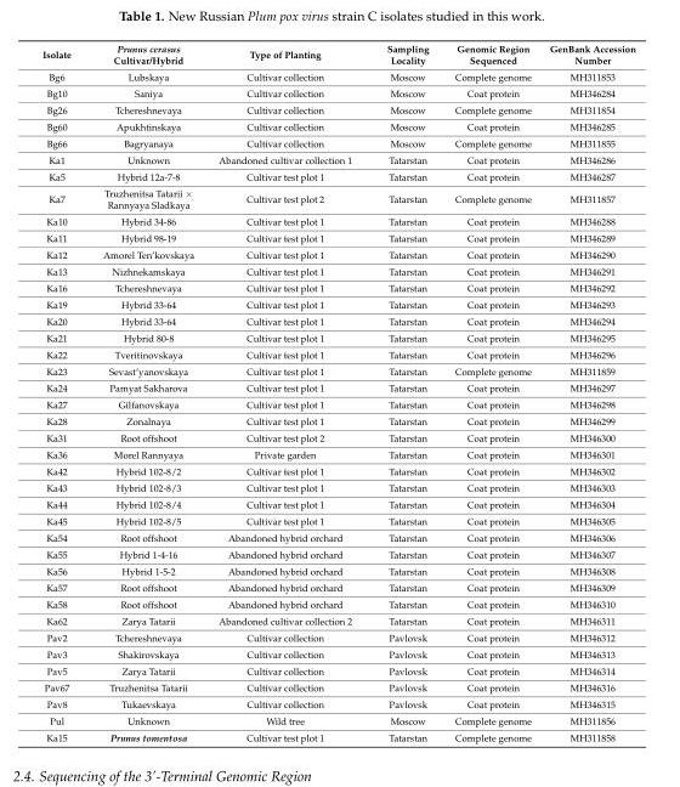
<table><thead><tr><td>Isolate</td><td>Prunus cerasus Cultivar/Hybrid</td><td>Type of Planting</td><td>Sampling Locality</td><td>Genomic Region Sequenced</td><td>GenBank Accession Number</td></tr></thead><tbody><tr><td>Bg6</td><td>Lubskaya</td><td>Cultivar collection</td><td>Moscow</td><td>Complete genome</td><td>MH311853</td></tr><tr><td>Bg10</td><td>Saniya</td><td>Cultivar collection</td><td>Moscow</td><td>Coat protein</td><td>MH346284</td></tr><tr><td>Bg26</td><td>Tchereshnevaya</td><td>Cultivar collection</td><td>Moscow</td><td>Complete genome</td><td>MH311854</td></tr><tr><td>Bg60</td><td>Apukhtinskaya</td><td>Cultivar collection</td><td>Moscow</td><td>Coat protein</td><td>MH346285</td></tr><tr><td>Bg66</td><td>Bagryanaya</td><td>Cultivar collection</td><td>Moscow</td><td>Complete genome</td><td>MH311855</td></tr><tr><td>Ka1</td><td>Unknown</td><td>Abandoned cultivar collection 1</td><td>Tatarstan</td><td>Coat protein</td><td>MH346286</td></tr><tr><td>Ka5</td><td>Hybrid 12a-7-8</td><td>Cultivar test plot 1</td><td>Tatarstan</td><td>Coat protein</td><td>MH346287</td></tr><tr><td>Ka7</td><td>Truzhenitsa Tatarii × Rannyaya Sladkaya</td><td>Cultivar test plot 2</td><td>Tatarstan</td><td>Complete genome</td><td>MH311857</td></tr><tr><td>Ka10</td><td>Hybrid 34-86</td><td>Cultivar test plot 1</td><td>Tatarstan</td><td>Coat protein</td><td>MH346288</td></tr><tr><td>Ka11</td><td>Hybrid 98-19</td><td>Cultivar test plot 1</td><td>Tatarstan</td><td>Coat protein</td><td>MH346289</td></tr><tr><td>Ka12</td><td>Amorel Ten’kovskaya</td><td>Cultivar test plot 1</td><td>Tatarstan</td><td>Coat protein</td><td>MH346290</td></tr><tr><td>Ka13</td><td>Nizhnekamskaya</td><td>Cultivar test plot 1</td><td>Tatarstan</td><td>Coat protein</td><td>MH346291</td></tr><tr><td>Ka16</td><td>Tchereshnevaya</td><td>Cultivar test plot 1</td><td>Tatarstan</td><td>Coat protein</td><td>MH346292</td></tr><tr><td>Ka19</td><td>Hybrid 33-64</td><td>Cultivar test plot 1</td><td>Tatarstan</td><td>Coat protein</td><td>MH346293</td></tr><tr><td>Ka20</td><td>Hybrid 33-64</td><td>Cultivar test plot 1</td><td>Tatarstan</td><td>Coat protein</td><td>MH346294</td></tr><tr><td>Ka21</td><td>Hybrid 80-8</td><td>Cultivar test plot 1</td><td>Tatarstan</td><td>Coat protein</td><td>MH346295</td></tr><tr><td>Ka22</td><td>Tveritinovskaya</td><td>Cultivar test plot 1</td><td>Tatarstan</td><td>Coat protein</td><td>MH346296</td></tr><tr><td>Ka23</td><td>Sevast’yanovskaya</td><td>Cultivar test plot 1</td><td>Tatarstan</td><td>Complete genome</td><td>MH311859</td></tr><tr><td>Ka24</td><td>Pamyat Sakharova</td><td>Cultivar test plot 1</td><td>Tatarstan</td><td>Coat protein</td><td>MH346297</td></tr><tr><td>Ka27</td><td>Gilfanovskaya</td><td>Cultivar test plot 1</td><td>Tatarstan</td><td>Coat protein</td><td>MH346298</td></tr><tr><td>Ka28</td><td>Zonalnaya</td><td>Cultivar test plot 1</td><td>Tatarstan</td><td>Coat protein</td><td>MH346299</td></tr><tr><td>Ka31</td><td>Root offshoot</td><td>Cultivar test plot 2</td><td>Tatarstan</td><td>Coat protein</td><td>MH346300</td></tr><tr><td>Ka36</td><td>Morel Rannyaya</td><td>Private garden</td><td>Tatarstan</td><td>Coat protein</td><td>MH346301</td></tr><tr><td>Ka42</td><td>Hybrid 102-8/2</td><td>Cultivar test plot 1</td><td>Tatarstan</td><td>Coat protein</td><td>MH346302</td></tr><tr><td>Ka43</td><td>Hybrid 102-8/3</td><td>Cultivar test plot 1</td><td>Tatarstan</td><td>Coat protein</td><td>MH346303</td></tr><tr><td>Ka44</td><td>Hybrid 102-8/4</td><td>Cultivar test plot 1</td><td>Tatarstan</td><td>Coat protein</td><td>MH346304</td></tr><tr><td>Ka45</td><td>Hybrid 102-8/5</td><td>Cultivar test plot 1</td><td>Tatarstan</td><td>Coat protein</td><td>MH346305</td></tr><tr><td>Ka54</td><td>Root offshoot</td><td>Abandoned hybrid orchard</td><td>Tatarstan</td><td>Coat protein</td><td>MH346306</td></tr><tr><td>Ka55</td><td>Hybrid 1-4-16</td><td>Abandoned hybrid orchard</td><td>Tatarstan</td><td>Coat protein</td><td>MH346307</td></tr><tr><td>Ka56</td><td>Hybrid 1-5-2</td><td>Abandoned hybrid orchard</td><td>Tatarstan</td><td>Coat protein</td><td>MH346308</td></tr><tr><td>Ka57</td><td>Root offshoot</td><td>Abandoned hybrid orchard</td><td>Tatarstan</td><td>Coat protein</td><td>MH346309</td></tr><tr><td>Ka58</td><td>Root offshoot</td><td>Abandoned hybrid orchard</td><td>Tatarstan</td><td>Coat protein</td><td>MH346310</td></tr><tr><td>Ka62</td><td>Zarya Tatarii</td><td>Abandoned cultivar collection 2</td><td>Tatarstan</td><td>Coat protein</td><td>MH346311</td></tr><tr><td>Pav2</td><td>Tchereshnevaya</td><td>Cultivar collection</td><td>Pavlovsk</td><td>Coat protein</td><td>MH346312</td></tr><tr><td>Pav3</td><td>Shakirovskaya</td><td>Cultivar collection</td><td>Pavlovsk</td><td>Coat protein</td><td>MH346313</td></tr><tr><td>Pav5</td><td>Zarya Tatarii</td><td>Cultivar collection</td><td>Pavlovsk</td><td>Coat protein</td><td>MH346314</td></tr><tr><td>Pav67</td><td>Truzhenitsa Tatarii</td><td>Cultivar collection</td><td>Pavlovsk</td><td>Coat protein</td><td>MH346316</td></tr><tr><td>Pav8</td><td>Tukaevskaya</td><td>Cultivar collection</td><td>Pavlovsk</td><td>Coat protein</td><td>MH346315</td></tr><tr><td>Pul</td><td>Unknown</td><td>Wild tree</td><td>Moscow</td><td>Complete genome</td><td>MH311856</td></tr><tr><td>Ka15</td><td>Prunus tomentosa</td><td>Cultivar test plot 1</td><td>Tatarstan</td><td>Complete genome</td><td>MH311858</td></tr></tbody></table>